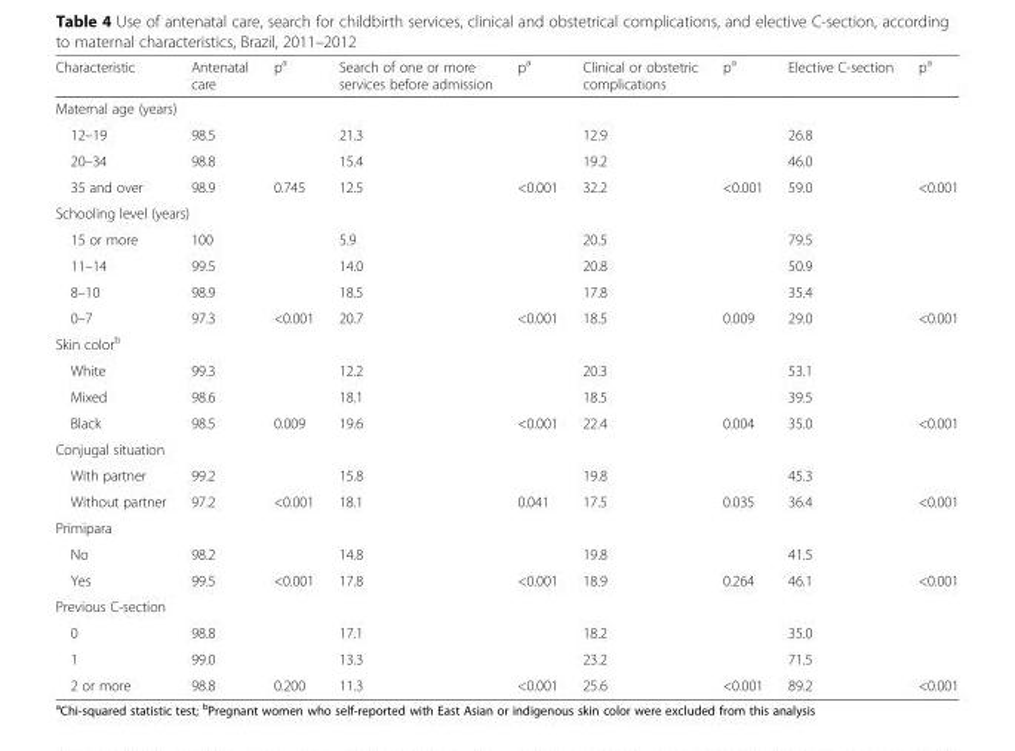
<table><thead><tr><td>Characteristic</td><td>Antenatal care</td><td>p<sup>a</sup></td><td>Search of one or more services before admission</td><td>p<sup>a</sup></td><td>Clinical or obstetric complications</td><td>p<sup>a</sup></td><td>Elective C-section</td><td>p<sup>a</sup></td></tr></thead><tbody><tr><td colspan="9">Maternal age (years)</td></tr><tr><td>12–19</td><td>98.5</td><td></td><td>21.3</td><td></td><td>12.9</td><td></td><td>26.8</td><td></td></tr><tr><td>20–34</td><td>98.8</td><td></td><td>15.4</td><td></td><td>19.2</td><td></td><td>46.0</td><td></td></tr><tr><td>35 and over</td><td>98.9</td><td>0.745</td><td>12.5</td><td>&lt;0.001</td><td>32.2</td><td>&lt;0.001</td><td>59.0</td><td>&lt;0.001</td></tr><tr><td colspan="9">Schooling level (years)</td></tr><tr><td>15 or more</td><td>100</td><td></td><td>5.9</td><td></td><td>20.5</td><td></td><td>79.5</td><td></td></tr><tr><td>11–14</td><td>99.5</td><td></td><td>14.0</td><td></td><td>20.8</td><td></td><td>50.9</td><td></td></tr><tr><td>8–10</td><td>98.9</td><td></td><td>18.5</td><td></td><td>17.8</td><td></td><td>35.4</td><td></td></tr><tr><td>0–7</td><td>97.3</td><td>&lt;0.001</td><td>20.7</td><td>&lt;0.001</td><td>18.5</td><td>0.009</td><td>29.0</td><td>&lt;0.001</td></tr><tr><td colspan="9">Skin color<sup>b</sup></td></tr><tr><td>White</td><td>99.3</td><td></td><td>12.2</td><td></td><td>20.3</td><td></td><td>53.1</td><td></td></tr><tr><td>Mixed</td><td>98.6</td><td></td><td>18.1</td><td></td><td>18.5</td><td></td><td>39.5</td><td></td></tr><tr><td>Black</td><td>98.5</td><td>0.009</td><td>19.6</td><td>&lt;0.001</td><td>22.4</td><td>0.004</td><td>35.0</td><td>&lt;0.001</td></tr><tr><td colspan="9">Conjugal situation</td></tr><tr><td>With partner</td><td>99.2</td><td></td><td>15.8</td><td></td><td>19.8</td><td></td><td>45.3</td><td></td></tr><tr><td>Without partner</td><td>97.2</td><td>&lt;0.001</td><td>18.1</td><td>0.041</td><td>17.5</td><td>0.035</td><td>36.4</td><td>&lt;0.001</td></tr><tr><td colspan="9">Primipara</td></tr><tr><td>No</td><td>98.2</td><td></td><td>14.8</td><td></td><td>19.8</td><td></td><td>41.5</td><td></td></tr><tr><td>Yes</td><td>99.5</td><td>&lt;0.001</td><td>17.8</td><td>&lt;0.001</td><td>18.9</td><td>0.264</td><td>46.1</td><td>&lt;0.001</td></tr><tr><td colspan="9">Previous C-section</td></tr><tr><td>0</td><td>98.8</td><td></td><td>17.1</td><td></td><td>18.2</td><td></td><td>35.0</td><td></td></tr><tr><td>1</td><td>99.0</td><td></td><td>13.3</td><td></td><td>23.2</td><td></td><td>71.5</td><td></td></tr><tr><td>2 or more</td><td>98.8</td><td>0.200</td><td>11.3</td><td>&lt;0.001</td><td>25.6</td><td>&lt;0.001</td><td>89.2</td><td>&lt;0.001</td></tr></tbody></table>